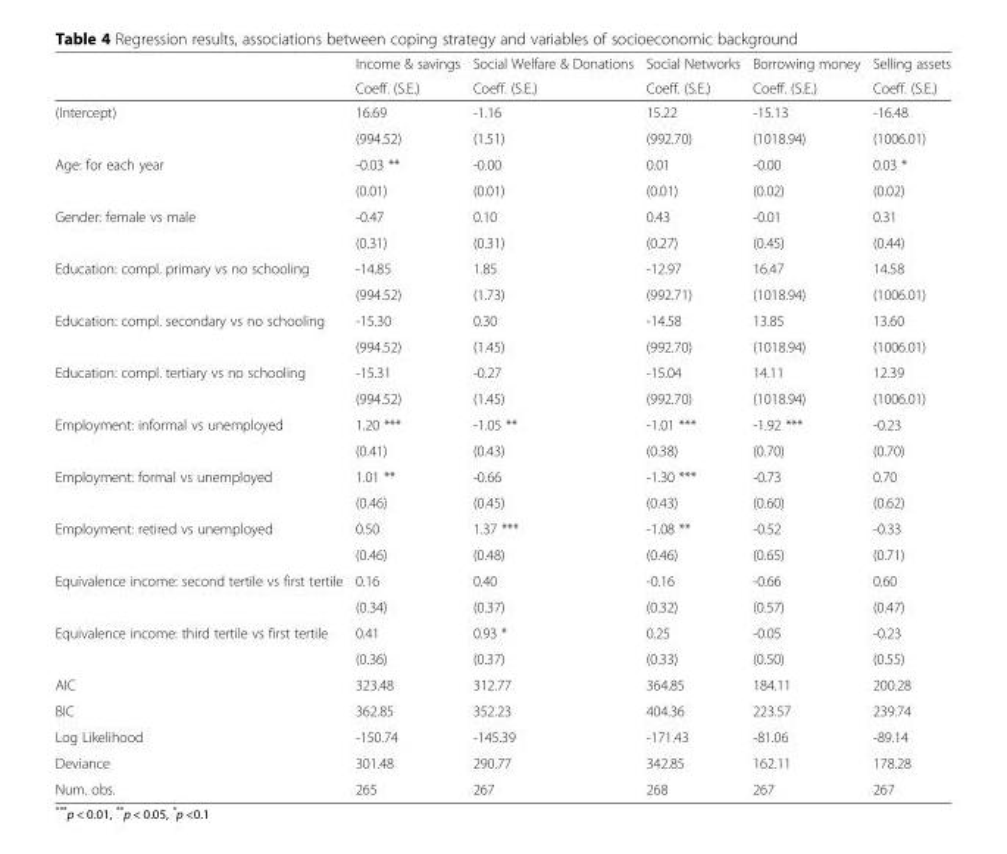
<table><thead><tr><td rowspan="2"></td><td rowspan="2">Income &amp; savings Coeff. (S.E.)</td><td rowspan="2">Social Welfare &amp; Donations Coeff. (S.E.)</td><td rowspan="2">Social Networks Coeff. (S.E.)</td><td rowspan="2">Borrowing money Coeff. (S.E.)</td><td rowspan="2">Selling assets Coeff. (S.E.)</td></tr><tr></tr></thead><tbody><tr><td rowspan="2">(Intercept)</td><td>16.69</td><td>-1.16</td><td>15.22</td><td>-15.13</td><td>-16.48</td></tr><tr><td>(994.52)</td><td>(1.51)</td><td>(992.70)</td><td>(1018.94)</td><td>(1006.01)</td></tr><tr><td rowspan="2">Age: for each year</td><td>-0.03 **</td><td>-0.00</td><td>0.01</td><td>-0.00</td><td>0.03 *</td></tr><tr><td>(0.01)</td><td>(0.01)</td><td>(0.01)</td><td>(0.02)</td><td>(0.02)</td></tr><tr><td rowspan="2">Gender: female vs male</td><td>-0.47</td><td>0.10</td><td>0.43</td><td>-0.01</td><td>0.31</td></tr><tr><td>(0.31)</td><td>(0.31)</td><td>(0.27)</td><td>(0.45)</td><td>(0.44)</td></tr><tr><td rowspan="2">Education: compl. primary vs no schooling</td><td>-14.85</td><td>1.85</td><td>-12.97</td><td>16.47</td><td>14.58</td></tr><tr><td>(994.52)</td><td>(1.73)</td><td>(992.71)</td><td>(1018.94)</td><td>(1006.01)</td></tr><tr><td rowspan="2">Education: compl. secondary vs no schooling</td><td>-15.30</td><td>0.30</td><td>-14.58</td><td>13.85</td><td>13.60</td></tr><tr><td>(994.52)</td><td>(1.45)</td><td>(992.70)</td><td>(1018.94)</td><td>(1006.01)</td></tr><tr><td rowspan="2">Education: compl. tertiary vs no schooling</td><td>-15.31</td><td>-0.27</td><td>-15.04</td><td>14.11</td><td>12.39</td></tr><tr><td>(994.52)</td><td>(1.45)</td><td>(992.70)</td><td>(1018.94)</td><td>(1006.01)</td></tr><tr><td rowspan="2">Employment: informal vs unemployed</td><td>1.20 ***</td><td>-1.05 **</td><td>-1.01 ***</td><td>-1.92 ***</td><td>-0.23</td></tr><tr><td>(0.41)</td><td>(0.43)</td><td>(0.38)</td><td>(0.70)</td><td>(0.70)</td></tr><tr><td rowspan="2">Employment: formal vs unemployed</td><td>1.01 **</td><td>-0.66</td><td>-1.30 ***</td><td>-0.73</td><td>0.70</td></tr><tr><td>(0.46)</td><td>(0.45)</td><td>(0.43)</td><td>(0.60)</td><td>(0.62)</td></tr><tr><td rowspan="2">Employment: retired vs unemployed</td><td>0.50</td><td>1.37 ***</td><td>-1.08 **</td><td>-0.52</td><td>-0.33</td></tr><tr><td>(0.46)</td><td>(0.48)</td><td>(0.46)</td><td>(0.65)</td><td>(0.71)</td></tr><tr><td rowspan="2">Equivalence income: second tertile vs first tertile</td><td>0.16</td><td>0.40</td><td>-0.16</td><td>-0.66</td><td>0.60</td></tr><tr><td>(0.34)</td><td>(0.37)</td><td>(0.32)</td><td>(0.57)</td><td>(0.47)</td></tr><tr><td rowspan="2">Equivalence income: third tertile vs first tertile</td><td>0.41</td><td>0.93 *</td><td>0.25</td><td>-0.05</td><td>-0.23</td></tr><tr><td>(0.36)</td><td>(0.37)</td><td>(0.33)</td><td>(0.50)</td><td>(0.55)</td></tr><tr><td>AIC</td><td>323.48</td><td>312.77</td><td>364.85</td><td>184.11</td><td>200.28</td></tr><tr><td>BIC</td><td>362.85</td><td>352.23</td><td>404.36</td><td>223.57</td><td>239.74</td></tr><tr><td>Log Likelihood</td><td>-150.74</td><td>-145.39</td><td>-171.43</td><td>-81.06</td><td>-89.14</td></tr><tr><td>Deviance</td><td>301.48</td><td>290.77</td><td>342.85</td><td>162.11</td><td>178.28</td></tr><tr><td>Num. obs.</td><td>265</td><td>267</td><td>268</td><td>267</td><td>267</td></tr></tbody></table>